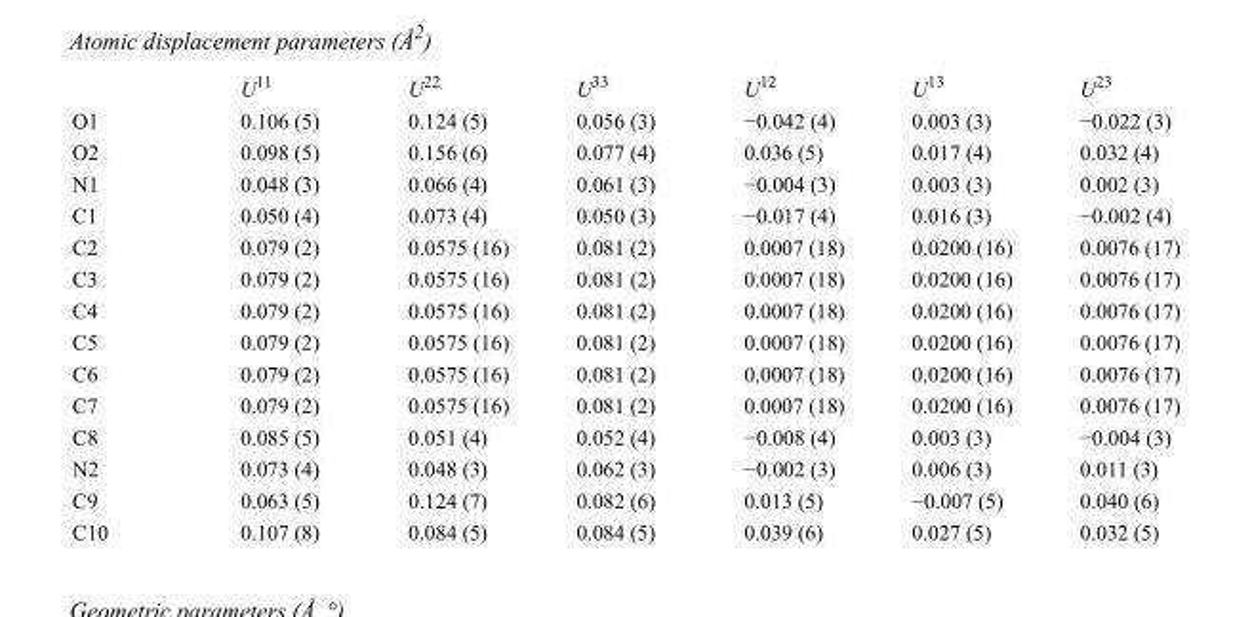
<table><thead><tr><td></td><td>U<sup>11</sup></td><td>U<sup>22</sup></td><td>U<sup>33</sup></td><td>U<sup>12</sup></td><td>U<sup>13</sup></td><td>U<sup>23</sup></td></tr></thead><tbody><tr><td>O1</td><td>0.106 (5)</td><td>0.124 (5)</td><td>0.056 (3)</td><td>−0.042 (4)</td><td>0.003 (3)</td><td>−0.022 (3)</td></tr><tr><td>O2</td><td>0.098 (5)</td><td>0.156 (6)</td><td>0.077 (4)</td><td>0.036 (5)</td><td>0.017 (4)</td><td>0.032 (4)</td></tr><tr><td>N1</td><td>0.048 (3)</td><td>0.066 (4)</td><td>0.061 (3)</td><td>−0.004 (3)</td><td>0.003 (3)</td><td>0.002 (3)</td></tr><tr><td>C1</td><td>0.050 (4)</td><td>0.073 (4)</td><td>0.050 (3)</td><td>−0.017 (4)</td><td>0.016 (3)</td><td>−0.002 (4)</td></tr><tr><td>C2</td><td>0.079 (2)</td><td>0.0575 (16)</td><td>0.081 (2)</td><td>0.0007 (18)</td><td>0.0200 (16)</td><td>0.0076 (17)</td></tr><tr><td>C3</td><td>0.079 (2)</td><td>0.0575 (16)</td><td>0.081 (2)</td><td>0.0007 (18)</td><td>0.0200 (16)</td><td>0.0076 (17)</td></tr><tr><td>C4</td><td>0.079 (2)</td><td>0.0575 (16)</td><td>0.081 (2)</td><td>0.0007 (18)</td><td>0.0200 (16)</td><td>0.0076 (17)</td></tr><tr><td>C5</td><td>0.079 (2)</td><td>0.0575 (16)</td><td>0.081 (2)</td><td>0.0007 (18)</td><td>0.0200 (16)</td><td>0.0076 (17)</td></tr><tr><td>C6</td><td>0.079 (2)</td><td>0.0575 (16)</td><td>0.081 (2)</td><td>0.0007 (18)</td><td>0.0200 (16)</td><td>0.0076 (17)</td></tr><tr><td>C7</td><td>0.079 (2)</td><td>0.0575 (16)</td><td>0.081 (2)</td><td>0.0007 (18)</td><td>0.0200 (16)</td><td>0.0076 (17)</td></tr><tr><td>C8</td><td>0.085 (5)</td><td>0.051 (4)</td><td>0.052 (4)</td><td>−0.008 (4)</td><td>0.003 (3)</td><td>−0.004 (3)</td></tr><tr><td>N2</td><td>0.073 (4)</td><td>0.048 (3)</td><td>0.062 (3)</td><td>−0.002 (3)</td><td>0.006 (3)</td><td>0.011 (3)</td></tr><tr><td>C9</td><td>0.063 (5)</td><td>0.124 (7)</td><td>0.082 (6)</td><td>0.013 (5)</td><td>−0.007 (5)</td><td>0.040 (6)</td></tr><tr><td>C10</td><td>0.107 (8)</td><td>0.084 (5)</td><td>0.084 (5)</td><td>0.039 (6)</td><td>0.027 (5)</td><td>0.032 (5)</td></tr></tbody></table>